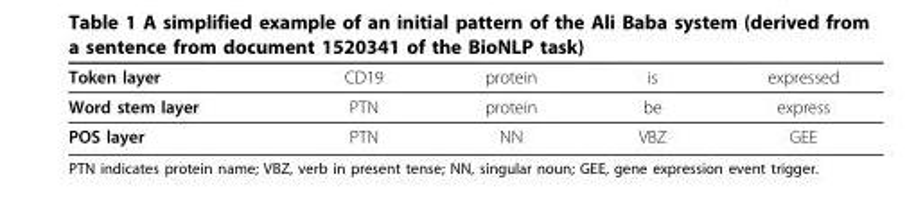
<table><thead><tr><td>Token layer</td><td>CD19</td><td>protein</td><td>is</td><td>expressed</td></tr></thead><tbody><tr><td>Word stem layer</td><td>PTN</td><td>protein</td><td>be</td><td>express</td></tr><tr><td>POS layer</td><td>PTN</td><td>NN</td><td>VBZ</td><td>GEE</td></tr></tbody></table>